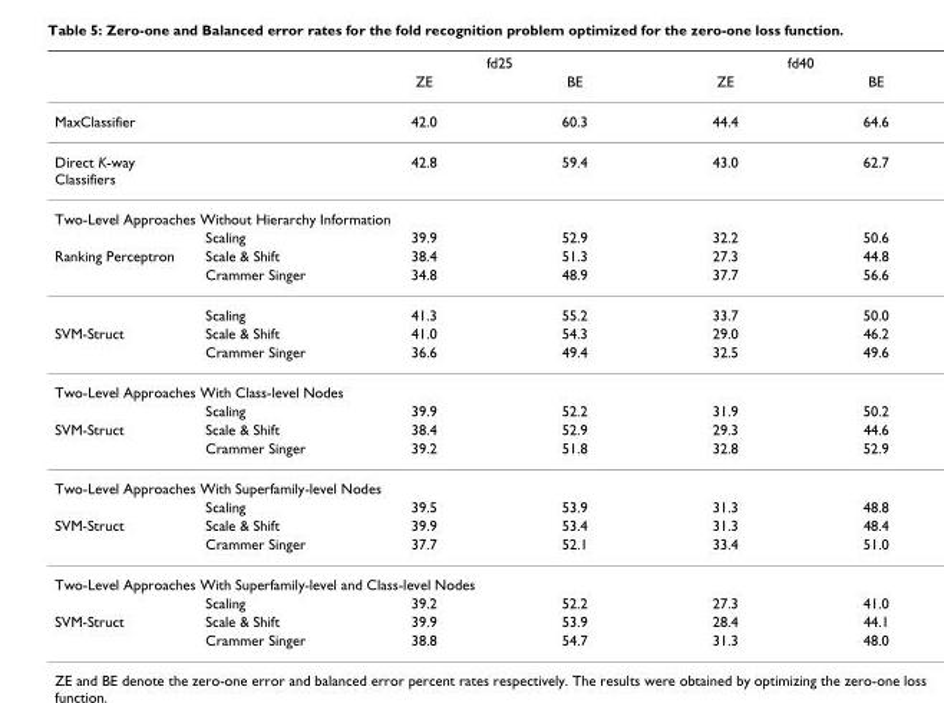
<table><thead><tr><td rowspan="2"></td><td rowspan="2"></td><td colspan="2">fd25</td><td colspan="2">fd40</td></tr><tr><td>ZE</td><td>BE</td><td>ZE</td><td>BE</td></tr></thead><tbody><tr><td>MaxClassifier</td><td></td><td>42.0</td><td>60.3</td><td>44.4</td><td>64.6</td></tr><tr><td>Direct K-way Classifiers</td><td></td><td>42.8</td><td>59.4</td><td>43.0</td><td>62.7</td></tr><tr><td colspan="6">Two-Level Approaches Without Hierarchy Information</td></tr><tr><td></td><td>Scaling</td><td>39.9</td><td>52.9</td><td>32.2</td><td>50.6</td></tr><tr><td rowspan="3">Ranking Perceptron</td><td>Scale &amp; Shift</td><td>38.4</td><td>51.3</td><td>27.3</td><td>44.8</td></tr><tr><td>Crammer Singer</td><td>34.8</td><td>48.9</td><td>37.7</td><td>56.6</td></tr><tr><td>Scaling</td><td>41.3</td><td>55.2</td><td>33.7</td><td>50.0</td></tr><tr><td rowspan="2">SVM-Struct</td><td>Scale &amp; Shift</td><td>41.0</td><td>54.3</td><td>29.0</td><td>46.2</td></tr><tr><td>Crammer Singer</td><td>36.6</td><td>49.4</td><td>32.5</td><td>49.6</td></tr><tr><td colspan="6">Two-Level Approaches With Class-level Nodes</td></tr><tr><td></td><td>Scaling</td><td>39.9</td><td>52.2</td><td>31.9</td><td>50.2</td></tr><tr><td rowspan="2">SVM-Struct</td><td>Scale &amp; Shift</td><td>38.4</td><td>52.9</td><td>29.3</td><td>44.6</td></tr><tr><td>Crammer Singer</td><td>39.2</td><td>51.8</td><td>32.8</td><td>52.9</td></tr><tr><td colspan="6">Two-Level Approaches With Superfamily-level Nodes</td></tr><tr><td></td><td>Scaling</td><td>39.5</td><td>53.9</td><td>31.3</td><td>48.8</td></tr><tr><td rowspan="2">SVM-Struct</td><td>Scale &amp; Shift</td><td>39.9</td><td>53.4</td><td>31.3</td><td>48.4</td></tr><tr><td>Crammer Singer</td><td>37.7</td><td>52.1</td><td>33.4</td><td>51.0</td></tr><tr><td colspan="6">Two-Level Approaches With Superfamily-level and Class-level Nodes</td></tr><tr><td></td><td>Scaling</td><td>39.2</td><td>52.2</td><td>27.3</td><td>41.0</td></tr><tr><td rowspan="2">SVM-Struct</td><td>Scale &amp; Shift</td><td>39.9</td><td>53.9</td><td>28.4</td><td>44.1</td></tr><tr><td>Crammer Singer</td><td>38.8</td><td>54.7</td><td>31.3</td><td>48.0</td></tr></tbody></table>